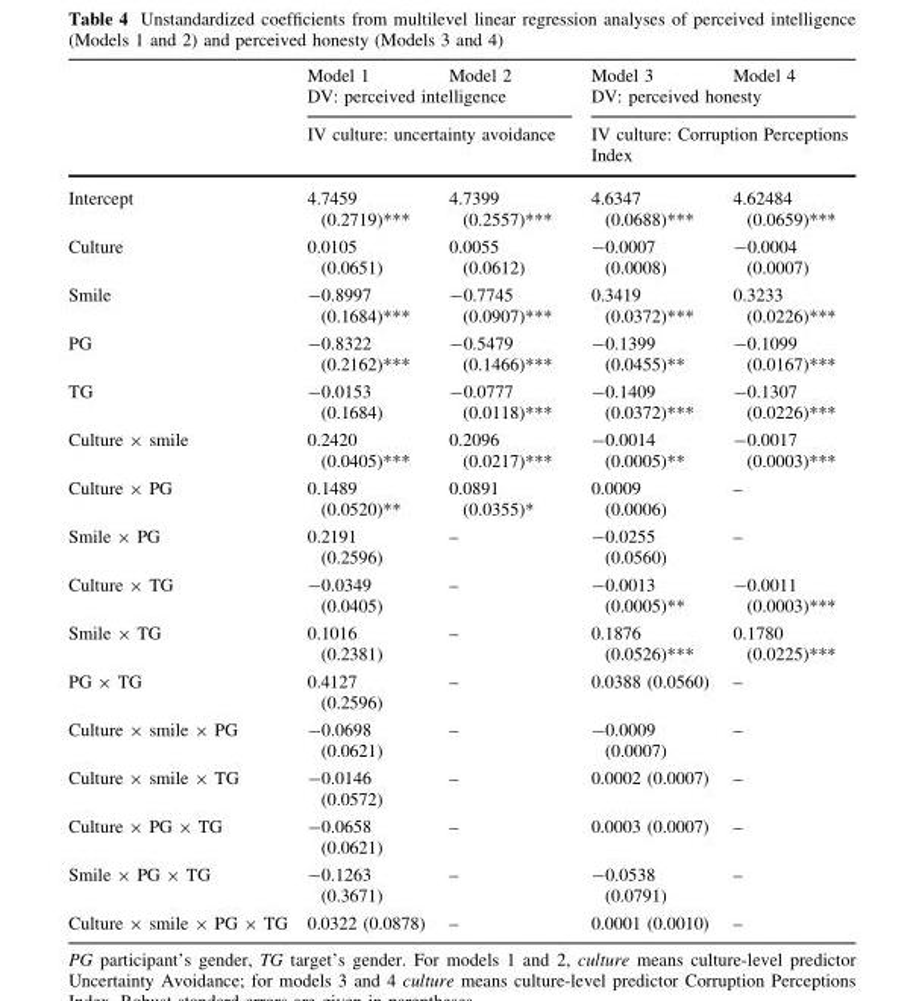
<table><thead><tr><td rowspan="3"></td><td>Model 1</td><td>Model 2</td><td>Model 3</td><td>Model 4</td></tr><tr><td rowspan="2" colspan="2">DV: perceived intelligence IV culture: uncertainty avoidance</td><td rowspan="2" colspan="2">DV: perceived honesty IV culture: Corruption Perceptions Index</td></tr><tr></tr></thead><tbody><tr><td>Intercept</td><td>4.7459 (0.2719)***</td><td>4.7399 (0.2557)***</td><td>4.6347 (0.0688)***</td><td>4.62484 (0.0659)***</td></tr><tr><td>Culture</td><td>0.0105 (0.0651)</td><td>0.0055 (0.0612)</td><td>-0.0007 (0.0008)</td><td>-0.0004 (0.0007)</td></tr><tr><td>Smile</td><td>-0.8997 (0.1684)***</td><td>-0.7745 (0.0907)***</td><td>0.3419 (0.0372)***</td><td>0.3233 (0.0226)***</td></tr><tr><td>PG</td><td>-0.8322 (0.2162)***</td><td>-0.5479 (0.1466)***</td><td>-0.1399 (0.0455)**</td><td>-0.1099 (0.0167)***</td></tr><tr><td>TG</td><td>-0.0153 (0.1684)</td><td>-0.0777 (0.0118)***</td><td>-0.1409 (0.0372)***</td><td>-0.1307 (0.0226)***</td></tr><tr><td>Culture × smile</td><td>0.2420 (0.0405)***</td><td>0.2096 (0.0217)***</td><td>-0.0014 (0.0005)**</td><td>-0.0017 (0.0003)***</td></tr><tr><td>Culture × PG</td><td>0.1489 (0.0520)**</td><td>0.0891 (0.0355)*</td><td>0.0009 (0.0006)</td><td>–</td></tr><tr><td>Smile × PG</td><td>0.2191 (0.2596)</td><td>–</td><td>-0.0255 (0.0560)</td><td>–</td></tr><tr><td>Culture × TG</td><td>-0.0349 (0.0405)</td><td>–</td><td>-0.0013 (0.0005)**</td><td>-0.0011 (0.0003)***</td></tr><tr><td>Smile × TG</td><td>0.1016 (0.2381)</td><td>–</td><td>0.1876 (0.0526)***</td><td>0.1780 (0.0225)***</td></tr><tr><td>PG × TG</td><td>0.4127 (0.2596)</td><td>–</td><td>0.0388 (0.0560)</td><td>–</td></tr><tr><td>Culture × smile × PG</td><td>-0.0698 (0.0621)</td><td>–</td><td>-0.0009 (0.0007)</td><td>–</td></tr><tr><td>Culture × smile × TG</td><td>-0.0146 (0.0572)</td><td>–</td><td>0.0002 (0.0007)</td><td>–</td></tr><tr><td>Culture × PG × TG</td><td>-0.0658 (0.0621)</td><td>–</td><td>0.0003 (0.0007)</td><td>–</td></tr><tr><td>Smile × PG × TG</td><td>-0.1263 (0.3671)</td><td>–</td><td>-0.0538 (0.0791)</td><td>–</td></tr><tr><td>Culture × smile × PG × TG</td><td>0.0322 (0.0878)</td><td>–</td><td>0.0001 (0.0010)</td><td>–</td></tr></tbody></table>